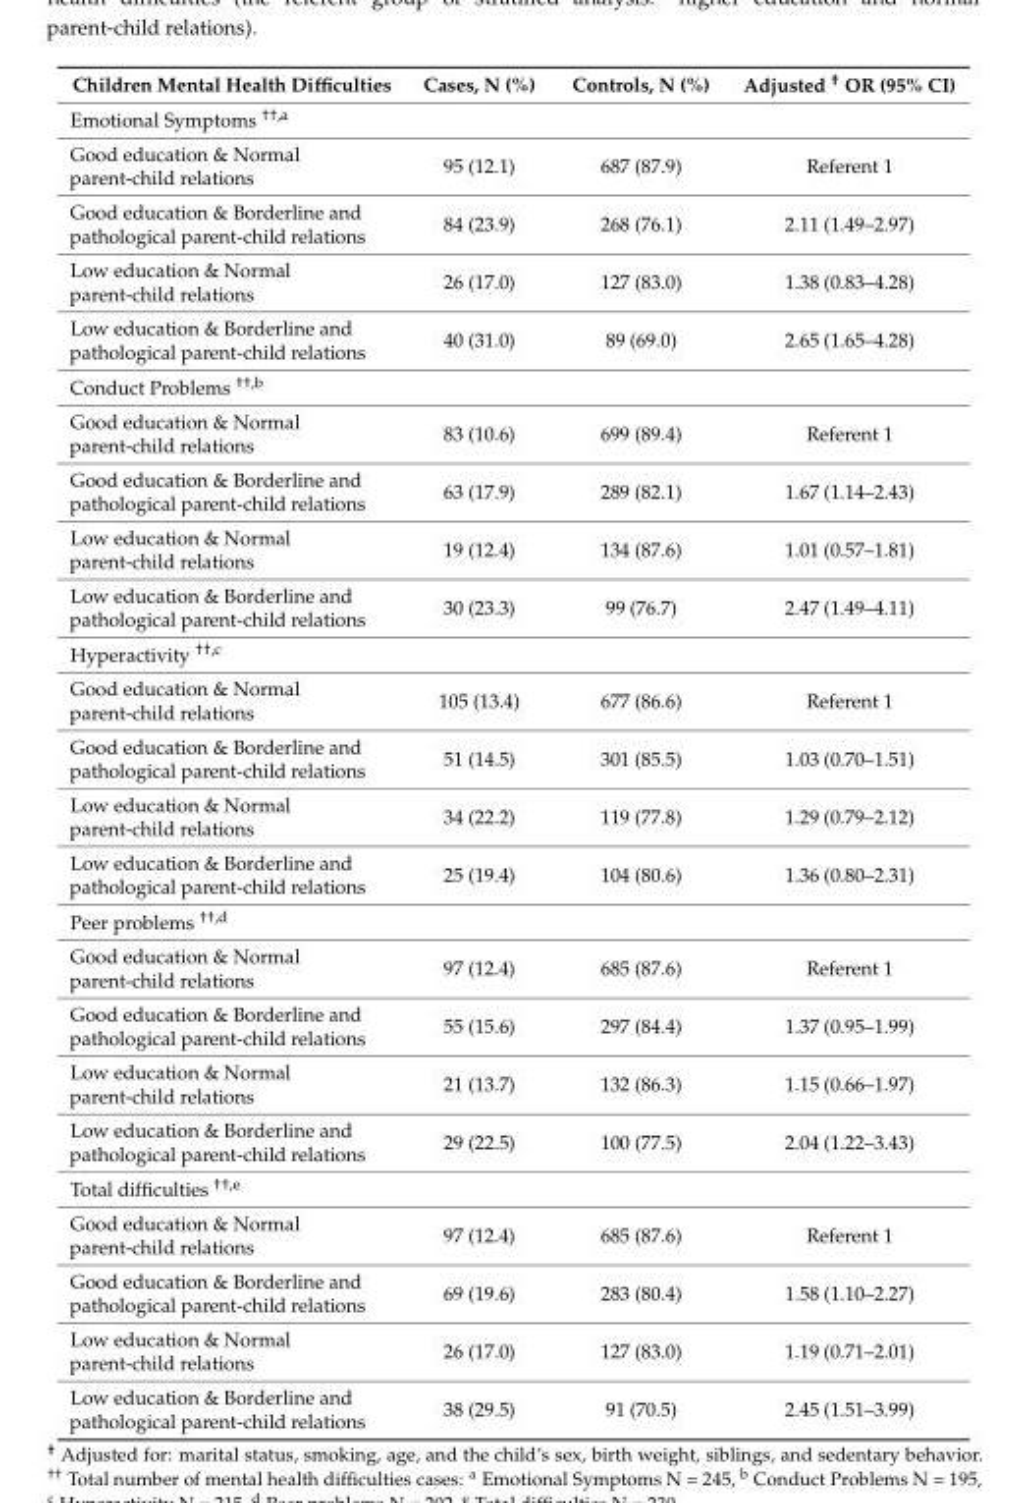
<table><thead><tr><td>Children Mental Health Difficulties</td><td>Cases, N (%)</td><td>Controls, N (%)</td><td>Adjusted <sup>†</sup> OR (95% CI)</td></tr></thead><tbody><tr><td colspan="4">Emotional Symptoms <sup>††,a</sup></td></tr><tr><td>Good education &amp; Normal parent-child relations</td><td>95 (12.1)</td><td>687 (87.9)</td><td>Referent 1</td></tr><tr><td>Good education &amp; Borderline and pathological parent-child relations</td><td>84 (23.9)</td><td>268 (76.1)</td><td>2.11 (1.49–2.97)</td></tr><tr><td>Low education &amp; Normal parent-child relations</td><td>26 (17.0)</td><td>127 (83.0)</td><td>1.38 (0.83–4.28)</td></tr><tr><td>Low education &amp; Borderline and pathological parent-child relations</td><td>40 (31.0)</td><td>89 (69.0)</td><td>2.65 (1.65–4.28)</td></tr><tr><td colspan="4">Conduct Problems <sup>††,b</sup></td></tr><tr><td>Good education &amp; Normal parent-child relations</td><td>83 (10.6)</td><td>699 (89.4)</td><td>Referent 1</td></tr><tr><td>Good education &amp; Borderline and pathological parent-child relations</td><td>63 (17.9)</td><td>289 (82.1)</td><td>1.67 (1.14–2.43)</td></tr><tr><td>Low education &amp; Normal parent-child relations</td><td>19 (12.4)</td><td>134 (87.6)</td><td>1.01 (0.57–1.81)</td></tr><tr><td>Low education &amp; Borderline and pathological parent-child relations</td><td>30 (23.3)</td><td>99 (76.7)</td><td>2.47 (1.49–4.11)</td></tr><tr><td colspan="4">Hyperactivity <sup>††,c</sup></td></tr><tr><td>Good education &amp; Normal parent-child relations</td><td>105 (13.4)</td><td>677 (86.6)</td><td>Referent 1</td></tr><tr><td>Good education &amp; Borderline and pathological parent-child relations</td><td>51 (14.5)</td><td>301 (85.5)</td><td>1.03 (0.70–1.51)</td></tr><tr><td>Low education &amp; Normal parent-child relations</td><td>34 (22.2)</td><td>119 (77.8)</td><td>1.29 (0.79–2.12)</td></tr><tr><td>Low education &amp; Borderline and pathological parent-child relations</td><td>25 (19.4)</td><td>104 (80.6)</td><td>1.36 (0.80–2.31)</td></tr><tr><td colspan="4">Peer problems <sup>††,d</sup></td></tr><tr><td>Good education &amp; Normal parent-child relations</td><td>97 (12.4)</td><td>685 (87.6)</td><td>Referent 1</td></tr><tr><td>Good education &amp; Borderline and pathological parent-child relations</td><td>55 (15.6)</td><td>297 (84.4)</td><td>1.37 (0.95–1.99)</td></tr><tr><td>Low education &amp; Normal parent-child relations</td><td>21 (13.7)</td><td>132 (86.3)</td><td>1.15 (0.66–1.97)</td></tr><tr><td>Low education &amp; Borderline and pathological parent-child relations</td><td>29 (22.5)</td><td>100 (77.5)</td><td>2.04 (1.22–3.43)</td></tr><tr><td colspan="4">Total difficulties <sup>††,e</sup></td></tr><tr><td>Good education &amp; Normal parent-child relations</td><td>97 (12.4)</td><td>685 (87.6)</td><td>Referent 1</td></tr><tr><td>Good education &amp; Borderline and pathological parent-child relations</td><td>69 (19.6)</td><td>283 (80.4)</td><td>1.58 (1.10–2.27)</td></tr><tr><td>Low education &amp; Normal parent-child relations</td><td>26 (17.0)</td><td>127 (83.0)</td><td>1.19 (0.71–2.01)</td></tr><tr><td>Low education &amp; Borderline and pathological parent-child relations</td><td>38 (29.5)</td><td>91 (70.5)</td><td>2.45 (1.51–3.99)</td></tr></tbody></table>